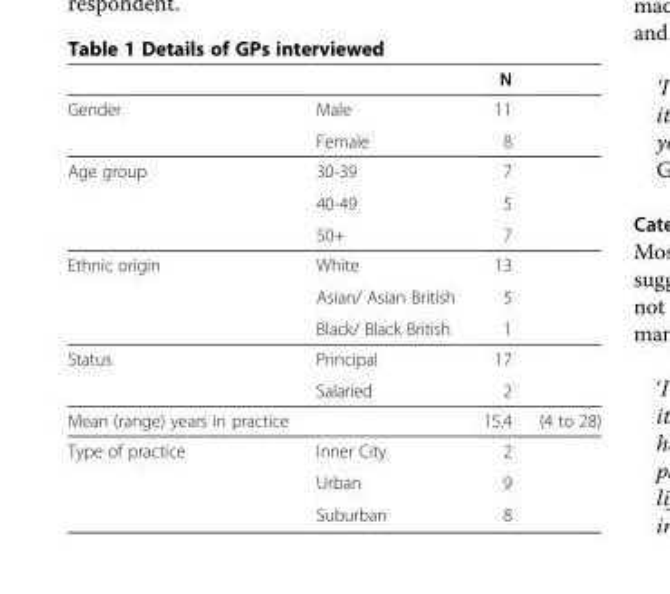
<table><thead><tr><td></td><td></td><td>N</td><td></td></tr></thead><tbody><tr><td rowspan="2">Gender</td><td>Male</td><td>11</td><td></td></tr><tr><td>Female</td><td>8</td><td></td></tr><tr><td rowspan="3">Age group</td><td>30-39</td><td>7</td><td></td></tr><tr><td>40-49</td><td>5</td><td></td></tr><tr><td>50+</td><td>7</td><td></td></tr><tr><td rowspan="3">Ethnic origin</td><td>White</td><td>13</td><td></td></tr><tr><td>Asian/ Asian British</td><td>5</td><td></td></tr><tr><td>Black/ Black British</td><td>1</td><td></td></tr><tr><td rowspan="2">Status</td><td>Principal</td><td>17</td><td></td></tr><tr><td>Salaried</td><td>2</td><td></td></tr><tr><td>Mean (range) years in practice</td><td></td><td>15.4</td><td>(4 to 28)</td></tr><tr><td rowspan="3">Type of practice</td><td>Inner City</td><td>2</td><td></td></tr><tr><td>Urban</td><td>9</td><td></td></tr><tr><td>Suburban</td><td>8</td><td></td></tr></tbody></table>